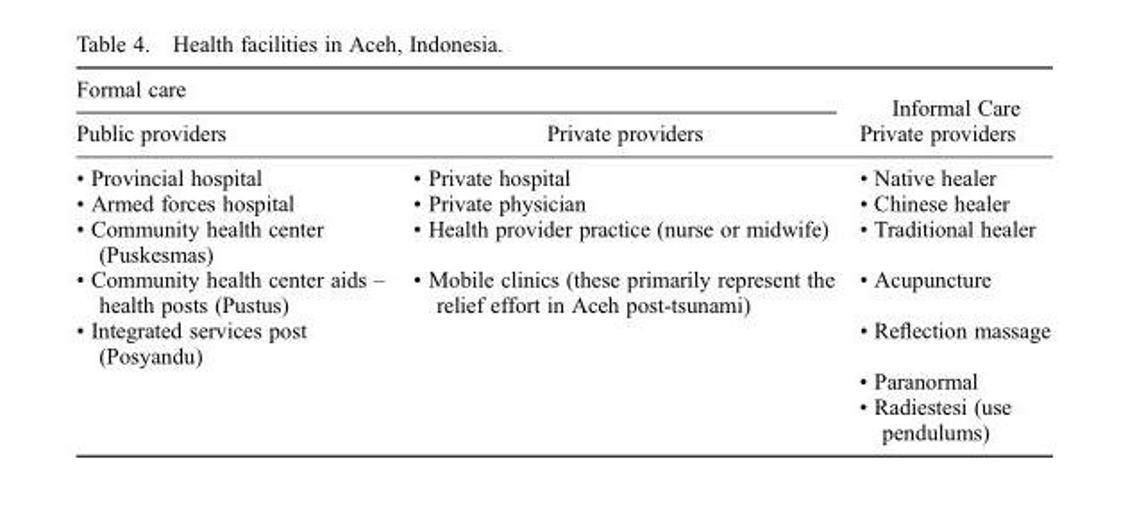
<table><thead><tr><td colspan="2">Formal care</td><td rowspan="2">Informal Care Private providers</td></tr><tr><td>Public providers</td><td>Private providers</td></tr></thead><tbody><tr><td>• Provincial hospital</td><td>• Private hospital</td><td>• Native healer</td></tr><tr><td>• Armed forces hospital</td><td>• Private physician</td><td>• Chinese healer</td></tr><tr><td>• Community health center (Puskesmas)</td><td>• Health provider practice (nurse or midwife)</td><td>• Traditional healer</td></tr><tr><td>• Community health center aids – health posts (Pustus)</td><td>• Mobile clinics (these primarily represent the relief effort in Aceh post-tsunami)</td><td>• Acupuncture</td></tr><tr><td rowspan="3">• Integrated services post (Posyandu)</td><td></td><td>• Reflection massage</td></tr><tr><td></td><td>• Paranormal</td></tr><tr><td></td><td>• Radiestesi (use pendulums)</td></tr></tbody></table>